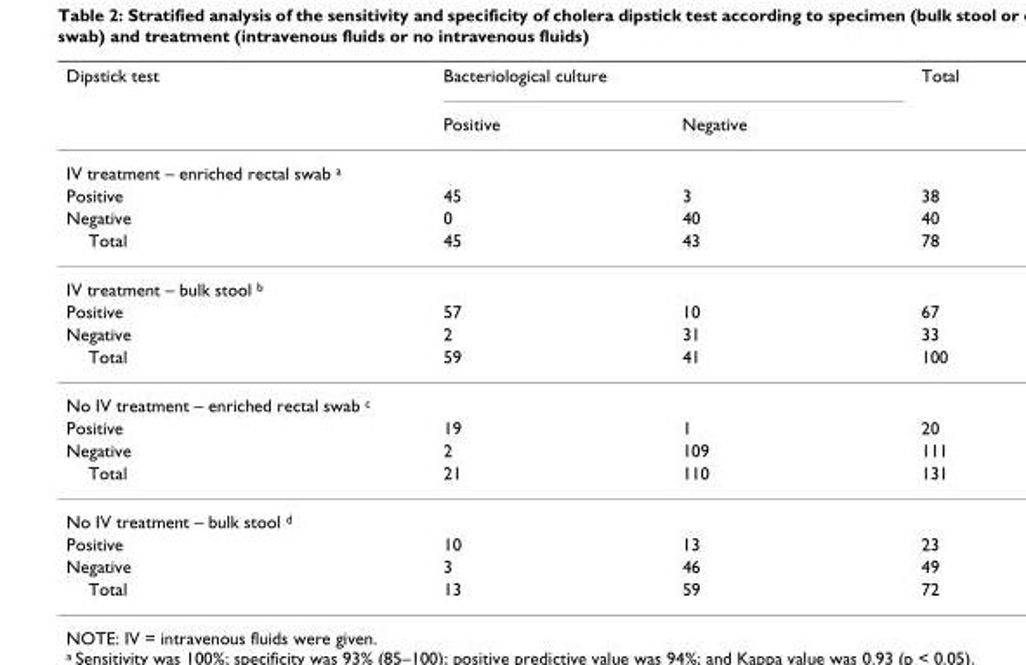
<table><thead><tr><td rowspan="2">Dipstick test</td><td colspan="2">Bacteriological culture</td><td rowspan="2">Total</td></tr><tr><td>Positive</td><td>Negative</td></tr></thead><tbody><tr><td colspan="4">IV treatment – enriched rectal swab <sup>a</sup></td></tr><tr><td>Positive</td><td>45</td><td>3</td><td>38</td></tr><tr><td>Negative</td><td>0</td><td>40</td><td>40</td></tr><tr><td>Total</td><td>45</td><td>43</td><td>78</td></tr><tr><td colspan="4">IV treatment – bulk stool <sup>b</sup></td></tr><tr><td>Positive</td><td>57</td><td>10</td><td>67</td></tr><tr><td>Negative</td><td>2</td><td>31</td><td>33</td></tr><tr><td>Total</td><td>59</td><td>41</td><td>100</td></tr><tr><td colspan="4">No IV treatment – enriched rectal swab <sup>c</sup></td></tr><tr><td>Positive</td><td>19</td><td>1</td><td>20</td></tr><tr><td>Negative</td><td>2</td><td>109</td><td>111</td></tr><tr><td>Total</td><td>21</td><td>110</td><td>131</td></tr><tr><td colspan="4">No IV treatment – bulk stool <sup>d</sup></td></tr><tr><td>Positive</td><td>10</td><td>13</td><td>23</td></tr><tr><td>Negative</td><td>3</td><td>46</td><td>49</td></tr><tr><td>Total</td><td>13</td><td>59</td><td>72</td></tr></tbody></table>